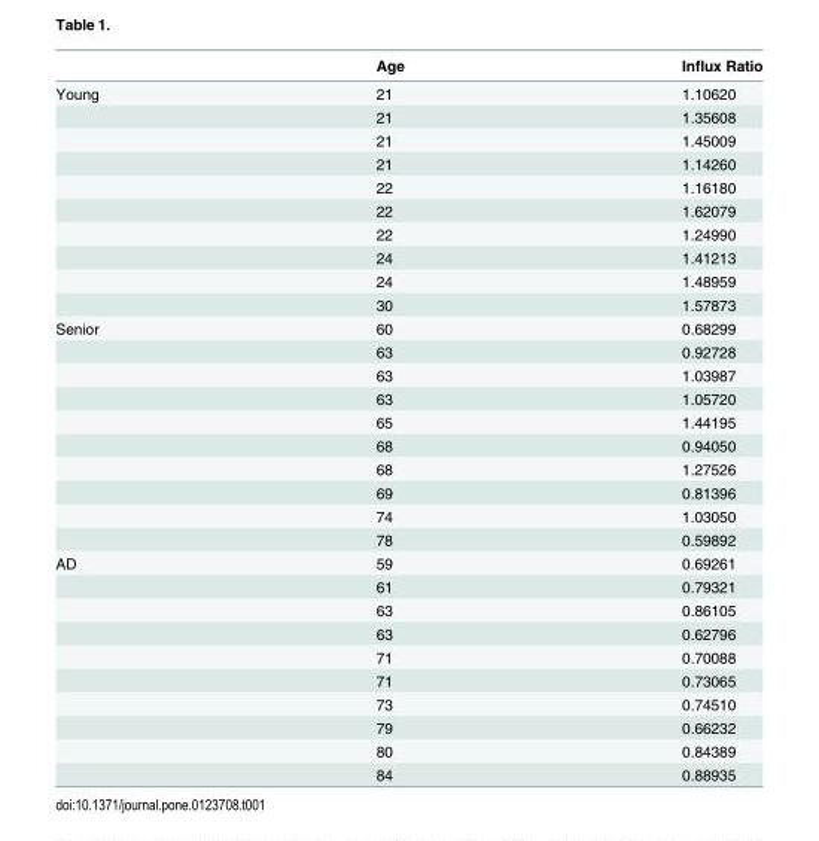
<table><thead><tr><td></td><td>Age</td><td>Influx Ratio</td></tr></thead><tbody><tr><td rowspan="10">Young</td><td>21</td><td>1.10620</td></tr><tr><td>21</td><td>1.35608</td></tr><tr><td>21</td><td>1.45009</td></tr><tr><td>21</td><td>1.14260</td></tr><tr><td>22</td><td>1.16180</td></tr><tr><td>22</td><td>1.62079</td></tr><tr><td>22</td><td>1.24990</td></tr><tr><td>24</td><td>1.41213</td></tr><tr><td>24</td><td>1.48959</td></tr><tr><td>30</td><td>1.57873</td></tr><tr><td rowspan="10">Senior</td><td>60</td><td>0.68299</td></tr><tr><td>63</td><td>0.92728</td></tr><tr><td>63</td><td>1.03987</td></tr><tr><td>63</td><td>1.05720</td></tr><tr><td>65</td><td>1.44195</td></tr><tr><td>68</td><td>0.94050</td></tr><tr><td>68</td><td>1.27526</td></tr><tr><td>69</td><td>0.81396</td></tr><tr><td>74</td><td>1.03050</td></tr><tr><td>78</td><td>0.59892</td></tr><tr><td rowspan="10">AD</td><td>59</td><td>0.69261</td></tr><tr><td>61</td><td>0.79321</td></tr><tr><td>63</td><td>0.86105</td></tr><tr><td>63</td><td>0.62796</td></tr><tr><td>71</td><td>0.70088</td></tr><tr><td>71</td><td>0.73065</td></tr><tr><td>73</td><td>0.74510</td></tr><tr><td>79</td><td>0.66232</td></tr><tr><td>80</td><td>0.84389</td></tr><tr><td>84</td><td>0.88935</td></tr></tbody></table>